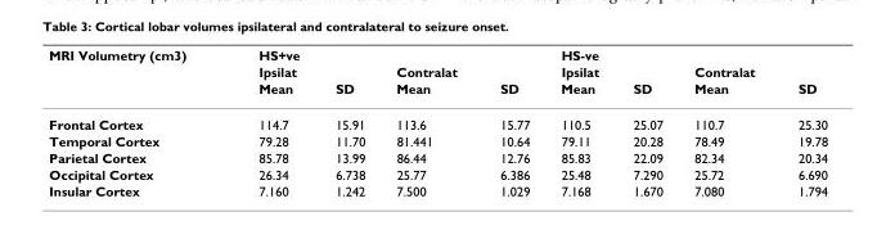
<table><thead><tr><td rowspan="3">MRI Volumetry (cm3)</td><td rowspan="3">HS+ve Ipsilat Mean</td><td rowspan="3">SD</td><td rowspan="3">Contralat Mean</td><td rowspan="3">SD</td><td rowspan="3">HS-ve Ipsilat Mean</td><td rowspan="3">SD</td><td rowspan="3">Contralat Mean</td><td rowspan="3">SD</td></tr><tr></tr><tr></tr></thead><tbody><tr><td>Frontal Cortex</td><td>114.7</td><td>15.91</td><td>113.6</td><td>15.77</td><td>110.5</td><td>25.07</td><td>110.7</td><td>25.30</td></tr><tr><td>Temporal Cortex</td><td>79.28</td><td>11.70</td><td>81.441</td><td>10.64</td><td>79.11</td><td>20.28</td><td>78.49</td><td>19.78</td></tr><tr><td>Parietal Cortex</td><td>85.78</td><td>13.99</td><td>86.44</td><td>12.76</td><td>85.83</td><td>22.09</td><td>82.34</td><td>20.34</td></tr><tr><td>Occipital Cortex</td><td>26.34</td><td>6.738</td><td>25.77</td><td>6.386</td><td>25.48</td><td>7.290</td><td>25.72</td><td>6.690</td></tr><tr><td>Insular Cortex</td><td>7.160</td><td>1.242</td><td>7.500</td><td>1.029</td><td>7.168</td><td>1.670</td><td>7.080</td><td>1.794</td></tr></tbody></table>